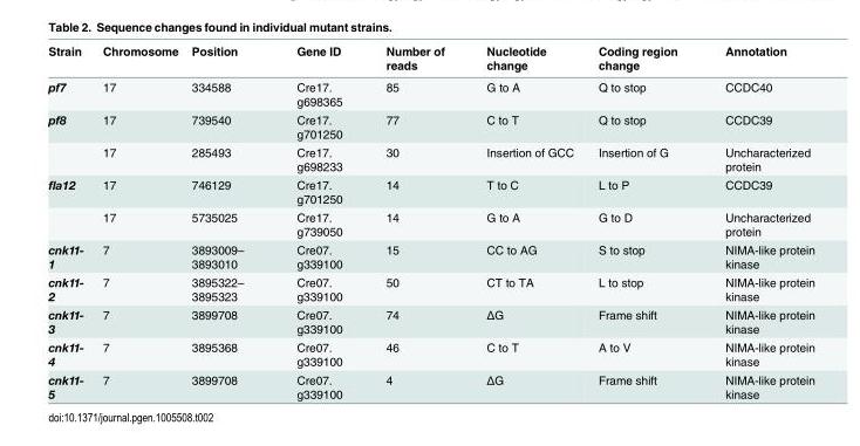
<table><thead><tr><td>Strain</td><td>Chromosome</td><td>Position</td><td>Gene ID</td><td>Number of reads</td><td>Nucleotide change</td><td>Coding region change</td><td>Annotation</td></tr></thead><tbody><tr><td>pf7</td><td>17</td><td>334588</td><td>Cre17. g698365</td><td>85</td><td>G to A</td><td>Q to stop</td><td>CCDC40</td></tr><tr><td rowspan="2">pf8</td><td>17</td><td>739540</td><td>Cre17. g701250</td><td>77</td><td>C to T</td><td>Q to stop</td><td>CCDC39</td></tr><tr><td>17</td><td>285493</td><td>Cre17. g698233</td><td>30</td><td>Insertion of GCC</td><td>Insertion of G</td><td>Uncharacterized protein</td></tr><tr><td rowspan="2">fla12</td><td>17</td><td>746129</td><td>Cre17. g701250</td><td>14</td><td>T to C</td><td>L to P</td><td>CCDC39</td></tr><tr><td>17</td><td>5735025</td><td>Cre17. g739050</td><td>14</td><td>G to A</td><td>G to D</td><td>Uncharacterized protein</td></tr><tr><td>cnk11- 1</td><td>7</td><td>3893009– 3893010</td><td>Cre07. g339100</td><td>15</td><td>CC to AG</td><td>S to stop</td><td>NIMA-like protein kinase</td></tr><tr><td>cnk11- 2</td><td>7</td><td>3895322– 3895323</td><td>Cre07. g339100</td><td>50</td><td>CT to TA</td><td>L to stop</td><td>NIMA-like protein kinase</td></tr><tr><td>cnk11- 3</td><td>7</td><td>3899708</td><td>Cre07. g339100</td><td>74</td><td>ΔG</td><td>Frame shift</td><td>NIMA-like protein kinase</td></tr><tr><td>cnk11- 4</td><td>7</td><td>3895368</td><td>Cre07. g339100</td><td>46</td><td>C to T</td><td>A to V</td><td>NIMA-like protein kinase</td></tr><tr><td>cnk11- 5</td><td>7</td><td>3899708</td><td>Cre07. g339100</td><td>4</td><td>ΔG</td><td>Frame shift</td><td>NIMA-like protein kinase</td></tr></tbody></table>